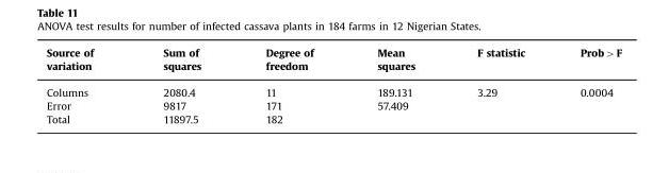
<table><thead><tr><td>Source of variation</td><td>Sum of squares</td><td>Degree of freedom</td><td>Mean squares</td><td>F statistic</td><td>Prob&gt;F</td></tr></thead><tbody><tr><td>Columns</td><td>2080.4</td><td>11</td><td>189.131</td><td>3.29</td><td>0.0004</td></tr><tr><td>Error</td><td>9817</td><td>171</td><td>57.409</td><td></td><td></td></tr><tr><td>Total</td><td>11897.5</td><td>182</td><td></td><td></td><td></td></tr></tbody></table>